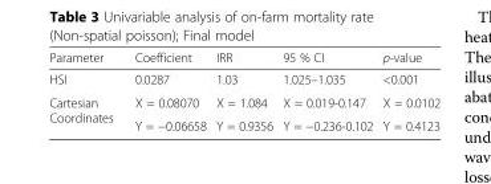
<table><thead><tr><td>Parameter</td><td>Coefficient</td><td>IRR</td><td>95 % CI</td><td>p-value</td></tr></thead><tbody><tr><td>HSI</td><td>0.0287</td><td>1.03</td><td>1.025–1.035</td><td>&lt;0.001</td></tr><tr><td rowspan="2">Cartesian Coordinates</td><td>X = 0.08070</td><td>X = 1.084</td><td>X = 0.019-0.147</td><td>X = 0.0102</td></tr><tr><td>Y = −0.06658</td><td>Y = 0.9356</td><td>Y = −0.236-0.102</td><td>Y = 0.4123</td></tr></tbody></table>